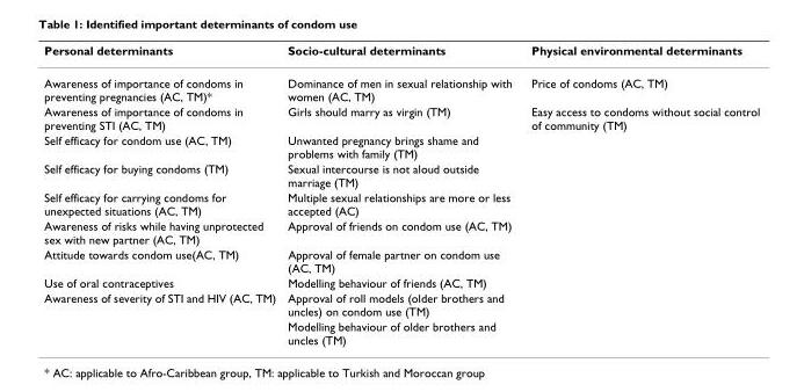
<table><thead><tr><td>Personal determinants</td><td>Socio-cultural determinants</td><td>Physical environmental determinants</td></tr></thead><tbody><tr><td>Awareness of importance of condoms in preventing pregnancies (AC, TM)*</td><td>Dominance of men in sexual relationship with women (AC, TM)</td><td>Price of condoms (AC, TM)</td></tr><tr><td>Awareness of importance of condoms in preventing STI (AC, TM)</td><td>Girls should marry as virgin (TM)</td><td>Easy access to condoms without social control of community (TM)</td></tr><tr><td>Self efficacy for condom use (AC, TM)</td><td>Unwanted pregnancy brings shame and problems with family (TM)</td><td></td></tr><tr><td>Self efficacy for buying condoms (TM)</td><td>Sexual intercourse is not aloud outside marriage (TM)</td><td></td></tr><tr><td>Self efficacy for carrying condoms for unexpected situations (AC, TM)</td><td>Multiple sexual relationships are more or less accepted (AC)</td><td></td></tr><tr><td>Awareness of risks while having unprotected sex with new partner (AC, TM)</td><td>Approval of friends on condom use (AC, TM)</td><td></td></tr><tr><td>Attitude towards condom use(AC, TM)</td><td>Approval of female partner on condom use (AC, TM)</td><td></td></tr><tr><td>Use of oral contraceptives</td><td>Modelling behaviour of friends (AC, TM)</td><td></td></tr><tr><td rowspan="2">Awareness of severity of STI and HIV (AC, TM)</td><td>Approval of roll models (older brothers and uncles) on condom use (TM)</td><td></td></tr><tr><td>Modelling behaviour of older brothers and uncles (TM)</td><td></td></tr></tbody></table>